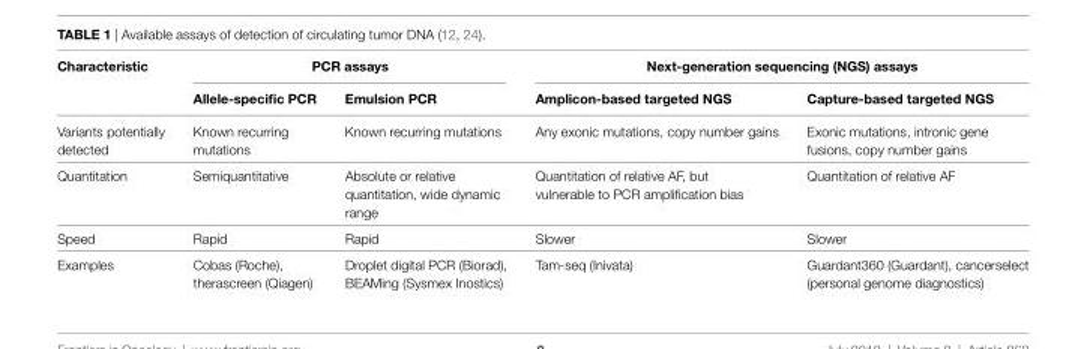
<table><thead><tr><td rowspan="2">Characteristic</td><td colspan="2">PCR assays</td><td colspan="2">Next-generation sequencing (NGS) assays</td></tr><tr><td>Allele-specific PCR</td><td>emulsion PCR</td><td>Amplicon-based targeted NGS</td><td>Capture-based targeted NGS</td></tr></thead><tbody><tr><td>Variants potentially detected</td><td>Known recurring mutations</td><td>Known recurring mutations</td><td>Any exonic mutations, copy number gains</td><td>Exonic mutations, intronic gene fusions, copy number gains</td></tr><tr><td>Quantitation</td><td>Semiquantitative</td><td>Absolute or relative quantitation, wide dynamic range</td><td>Quantitation of relative AF, but vulnerable to PCR amplification bias</td><td>Quantitation of relative AF</td></tr><tr><td>Speed</td><td>Rapid</td><td>Rapid</td><td>Slower</td><td>Slower</td></tr><tr><td>Examples</td><td>Cobas (Roche), therascreen (Qiagen)</td><td>Droplet digital PCR (Biorad), BEAMing (Sysmex Inostics)</td><td>Tam-seq (Inivata)</td><td>Guardant360 (Guardant), cancerselect (personal genome diagnostics)</td></tr></tbody></table>